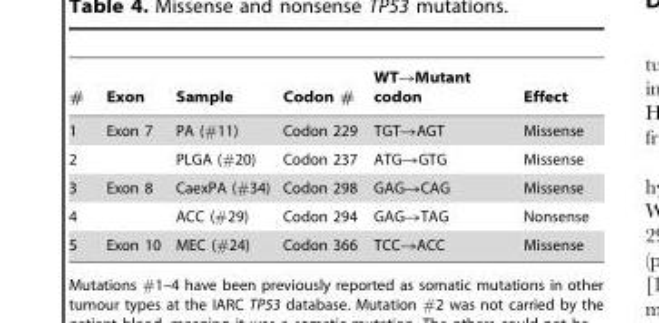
<table><thead><tr><td>#</td><td>Exon</td><td>Sample</td><td>Codon #</td><td>WT→Mutant codon</td><td>Effect</td></tr></thead><tbody><tr><td>1</td><td>Exon 7</td><td>PA (#11)</td><td>Codon 229</td><td>TGT→AGT</td><td>Missense</td></tr><tr><td>2</td><td></td><td>PLGA (#20)</td><td>Codon 237</td><td>ATG→GTG</td><td>Missense</td></tr><tr><td>3</td><td>Exon 8</td><td>CaexPA (#34)</td><td>Codon 298</td><td>GAG→CAG</td><td>Missense</td></tr><tr><td>4</td><td></td><td>ACC (#29)</td><td>Codon 294</td><td>GAG→TAG</td><td>Nonsense</td></tr><tr><td>5</td><td>Exon 10</td><td>MEC (#24)</td><td>Codon 366</td><td>TCC→ACC</td><td>Missense</td></tr></tbody></table>